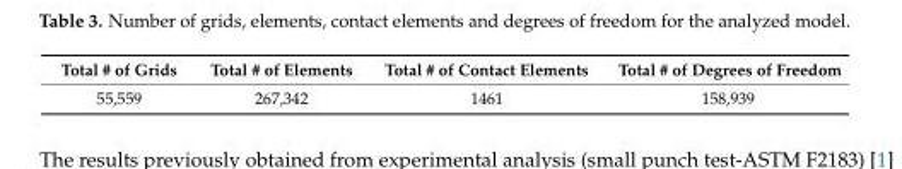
<table><thead><tr><td>Total # of Grids</td><td>Total # of Elements</td><td>Total # of Contact Elements</td><td>Total # of Degrees of Freedom</td></tr></thead><tbody><tr><td>55,559</td><td>267,342</td><td>1461</td><td>158,939</td></tr></tbody></table>